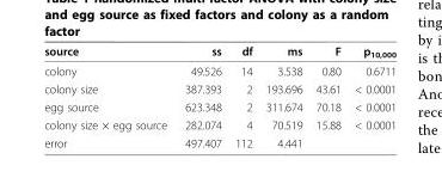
<table><thead><tr><td>source</td><td>ss</td><td>df</td><td>ms</td><td>F</td><td>p<sub>10,000</sub></td></tr></thead><tbody><tr><td>colony</td><td>49.526</td><td>14</td><td>3.538</td><td>0.80</td><td>0.6711</td></tr><tr><td>colony size</td><td>387.393</td><td>2</td><td>193.696</td><td>43.61</td><td>&lt; 0.0001</td></tr><tr><td>egg source</td><td>623.348</td><td>2</td><td>311.674</td><td>70.18</td><td>&lt; 0.0001</td></tr><tr><td>colony size × egg source</td><td>282.074</td><td>4</td><td>70.519</td><td>15.88</td><td>&lt; 0.0001</td></tr><tr><td>error</td><td>497.407</td><td>112</td><td>4.441</td><td></td><td></td></tr></tbody></table>